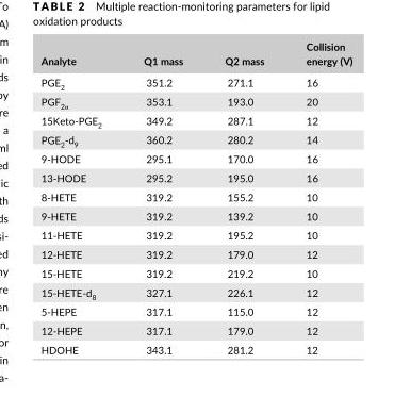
<table><thead><tr><td>Analyte</td><td>Q1 mass</td><td>Q2 mass</td><td>Collision energy (V)</td></tr></thead><tbody><tr><td>PGE<sub>2</sub></td><td>351.2</td><td>271.1</td><td>16</td></tr><tr><td>PGF<sub>2α</sub></td><td>353.1</td><td>193.0</td><td>20</td></tr><tr><td>15Keto- PGE<sub>2</sub></td><td>349.2</td><td>287.1</td><td>12</td></tr><tr><td>PGE<sub>2</sub>- d<sub>9</sub></td><td>360.2</td><td>280.2</td><td>14</td></tr><tr><td>9- HODE</td><td>295.1</td><td>170.0</td><td>16</td></tr><tr><td>13- HODE</td><td>295.2</td><td>195.0</td><td>16</td></tr><tr><td>8- HETE</td><td>319.2</td><td>155.2</td><td>10</td></tr><tr><td>9- HETE</td><td>319.2</td><td>139.2</td><td>10</td></tr><tr><td>11- HETE</td><td>319.2</td><td>195.2</td><td>10</td></tr><tr><td>12- HETE</td><td>319.2</td><td>179.0</td><td>12</td></tr><tr><td>15- HETE</td><td>319.2</td><td>219.2</td><td>10</td></tr><tr><td>15- HETE- d<sub>8</sub></td><td>327.1</td><td>226.1</td><td>12</td></tr><tr><td>5- HEPE</td><td>317.1</td><td>115.0</td><td>12</td></tr><tr><td>12- HEPE</td><td>317.1</td><td>179.0</td><td>12</td></tr><tr><td>HDOHE</td><td>343.1</td><td>281.2</td><td>12</td></tr></tbody></table>